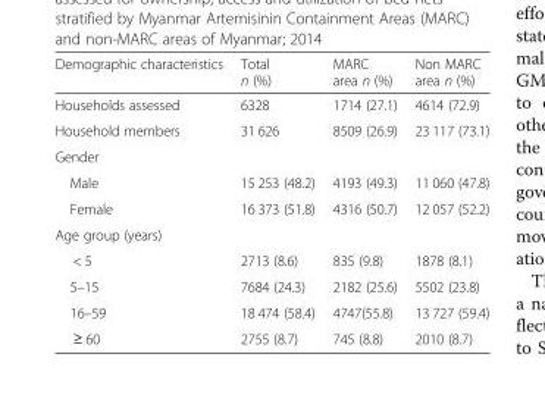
<table><thead><tr><td>Demographic characteristics</td><td>Total n (%)</td><td>MARC area n (%)</td><td>Non MARC area n (%)</td></tr></thead><tbody><tr><td>Households assessed</td><td>6328</td><td>1714 (27.1)</td><td>4614 (72.9)</td></tr><tr><td>Household members</td><td>31 626</td><td>8509 (26.9)</td><td>23 117 (73.1)</td></tr><tr><td colspan="4">Gender</td></tr><tr><td>Male</td><td>15 253 (48.2)</td><td>4193 (49.3)</td><td>11 060 (47.8)</td></tr><tr><td>Female</td><td>16 373 (51.8)</td><td>4316 (50.7)</td><td>12 057 (52.2)</td></tr><tr><td colspan="4">Age group (years)</td></tr><tr><td>&lt; 5</td><td>2713 (8.6)</td><td>835 (9.8)</td><td>1878 (8.1)</td></tr><tr><td>5–15</td><td>7684 (24.3)</td><td>2182 (25.6)</td><td>5502 (23.8)</td></tr><tr><td>16–59</td><td>18 474 (58.4)</td><td>4747(55.8)</td><td>13 727 (59.4)</td></tr><tr><td>≥ 60</td><td>2755 (8.7)</td><td>745 (8.8)</td><td>2010 (8.7)</td></tr></tbody></table>